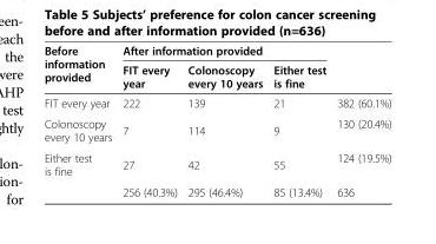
<table><thead><tr><td rowspan="2">Before information provided</td><td colspan="3">After information provided</td><td rowspan="2"></td></tr><tr><td>FIT every year</td><td>Colonoscopy every 10 years</td><td>Either test is fine</td></tr></thead><tbody><tr><td>FIT every year</td><td>222</td><td>139</td><td>21</td><td>382 (60.1%)</td></tr><tr><td>Colonoscopy every 10 years</td><td>7</td><td>114</td><td>9</td><td>130 (20.4%)</td></tr><tr><td rowspan="2">Either test is fine</td><td>27</td><td>42</td><td>55</td><td>124 (19.5%)</td></tr><tr><td>256 (40.3%)</td><td>295 (46.4%)</td><td>85 (13.4%)</td><td>636</td></tr></tbody></table>